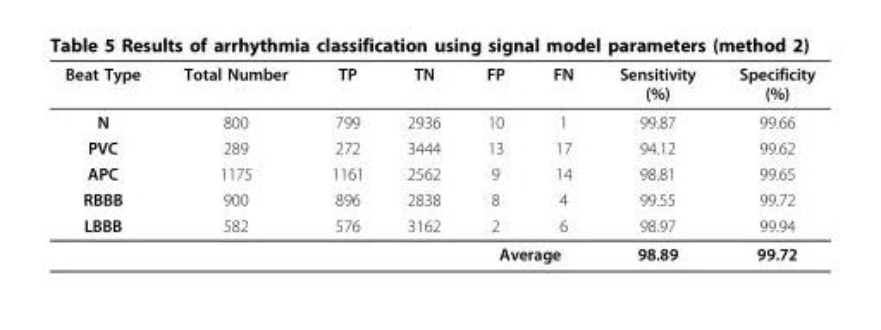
<table><thead><tr><td>Beat Type</td><td>Total Number</td><td>TP</td><td>TN</td><td>FP</td><td>FN</td><td>Sensitivity (%)</td><td>Specificity (%)</td></tr></thead><tbody><tr><td>N</td><td>800</td><td>799</td><td>2936</td><td>10</td><td>1</td><td>99.87</td><td>99.66</td></tr><tr><td>PVC</td><td>289</td><td>272</td><td>3444</td><td>13</td><td>17</td><td>94.12</td><td>99.62</td></tr><tr><td>APC</td><td>1175</td><td>1161</td><td>2562</td><td>9</td><td>14</td><td>98.81</td><td>99.65</td></tr><tr><td>RBBB</td><td>900</td><td>896</td><td>2838</td><td>8</td><td>4</td><td>99.55</td><td>99.72</td></tr><tr><td rowspan="2">LBBB</td><td>582</td><td>576</td><td>3162</td><td>2</td><td>6</td><td>98.97</td><td>99.94</td></tr><tr><td></td><td></td><td></td><td colspan="2">Average</td><td>98.89</td><td>99.72</td></tr></tbody></table>